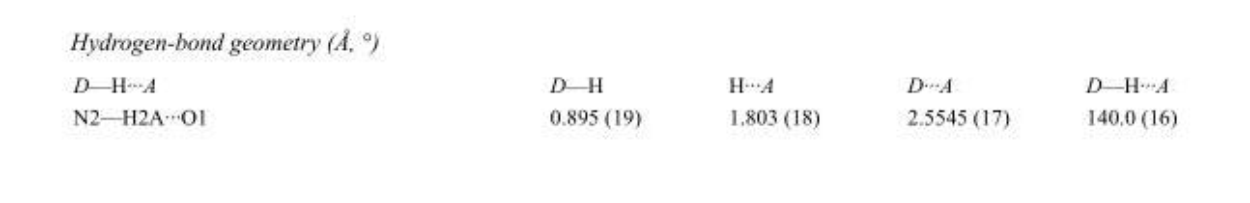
<table><tbody><tr><td>D—H···A</td><td>D—H</td><td>H···A</td><td>D···A</td><td>D—H···A</td></tr><tr><td>N2—H2A···O1</td><td>0.895 (19)</td><td>1.803 (18)</td><td>2.5545 (17)</td><td>140.0 (16)</td></tr></tbody></table>